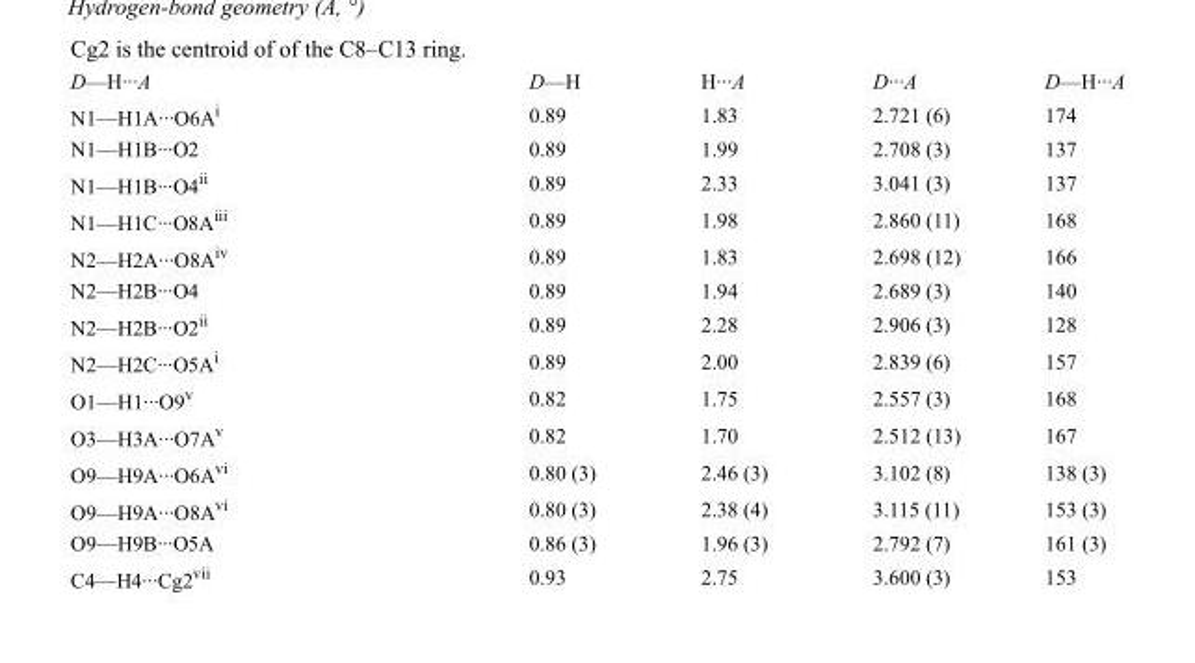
<table><tbody><tr><td>D—H···A</td><td>D—H</td><td>H···A</td><td>D···A</td><td>D—H···A</td></tr><tr><td>N1—H1A···O6A<sup>i</sup></td><td>0.89</td><td>1.83</td><td>2.721 (6)</td><td>174</td></tr><tr><td>N1—H1B···O2</td><td>0.89</td><td>1.99</td><td>2.708 (3)</td><td>137</td></tr><tr><td>N1—H1B···O4<sup>ii</sup></td><td>0.89</td><td>2.33</td><td>3.041 (3)</td><td>137</td></tr><tr><td>N1—H1C···O8A<sup>iii</sup></td><td>0.89</td><td>1.98</td><td>2.860 (11)</td><td>168</td></tr><tr><td>N2—H2A···O8A<sup>iv</sup></td><td>0.89</td><td>1.83</td><td>2.698 (12)</td><td>166</td></tr><tr><td>N2—H2B···O4</td><td>0.89</td><td>1.94</td><td>2.689 (3)</td><td>140</td></tr><tr><td>N2—H2B···O2<sup>ii</sup></td><td>0.89</td><td>2.28</td><td>2.906 (3)</td><td>128</td></tr><tr><td>N2—H2C···O5A<sup>i</sup></td><td>0.89</td><td>2.00</td><td>2.839 (6)</td><td>157</td></tr><tr><td>O1—H1···O9<sup>v</sup></td><td>0.82</td><td>1.75</td><td>2.557 (3)</td><td>168</td></tr><tr><td>O3—H3A···O7A<sup>v</sup></td><td>0.82</td><td>1.70</td><td>2.512 (13)</td><td>167</td></tr><tr><td>O9—H9A···O6A<sup>vi</sup></td><td>0.80 (3)</td><td>2.46 (3)</td><td>3.102 (8)</td><td>138 (3)</td></tr><tr><td>O9—H9A···O8A<sup>vi</sup></td><td>0.80 (3)</td><td>2.38 (4)</td><td>3.115 (11)</td><td>153 (3)</td></tr><tr><td>O9—H9B···O5A</td><td>0.86 (3)</td><td>1.96 (3)</td><td>2.792 (7)</td><td>161 (3)</td></tr><tr><td>C4—H4···Cg2<sup>vii</sup></td><td>0.93</td><td>2.75</td><td>3.600 (3)</td><td>153</td></tr></tbody></table>